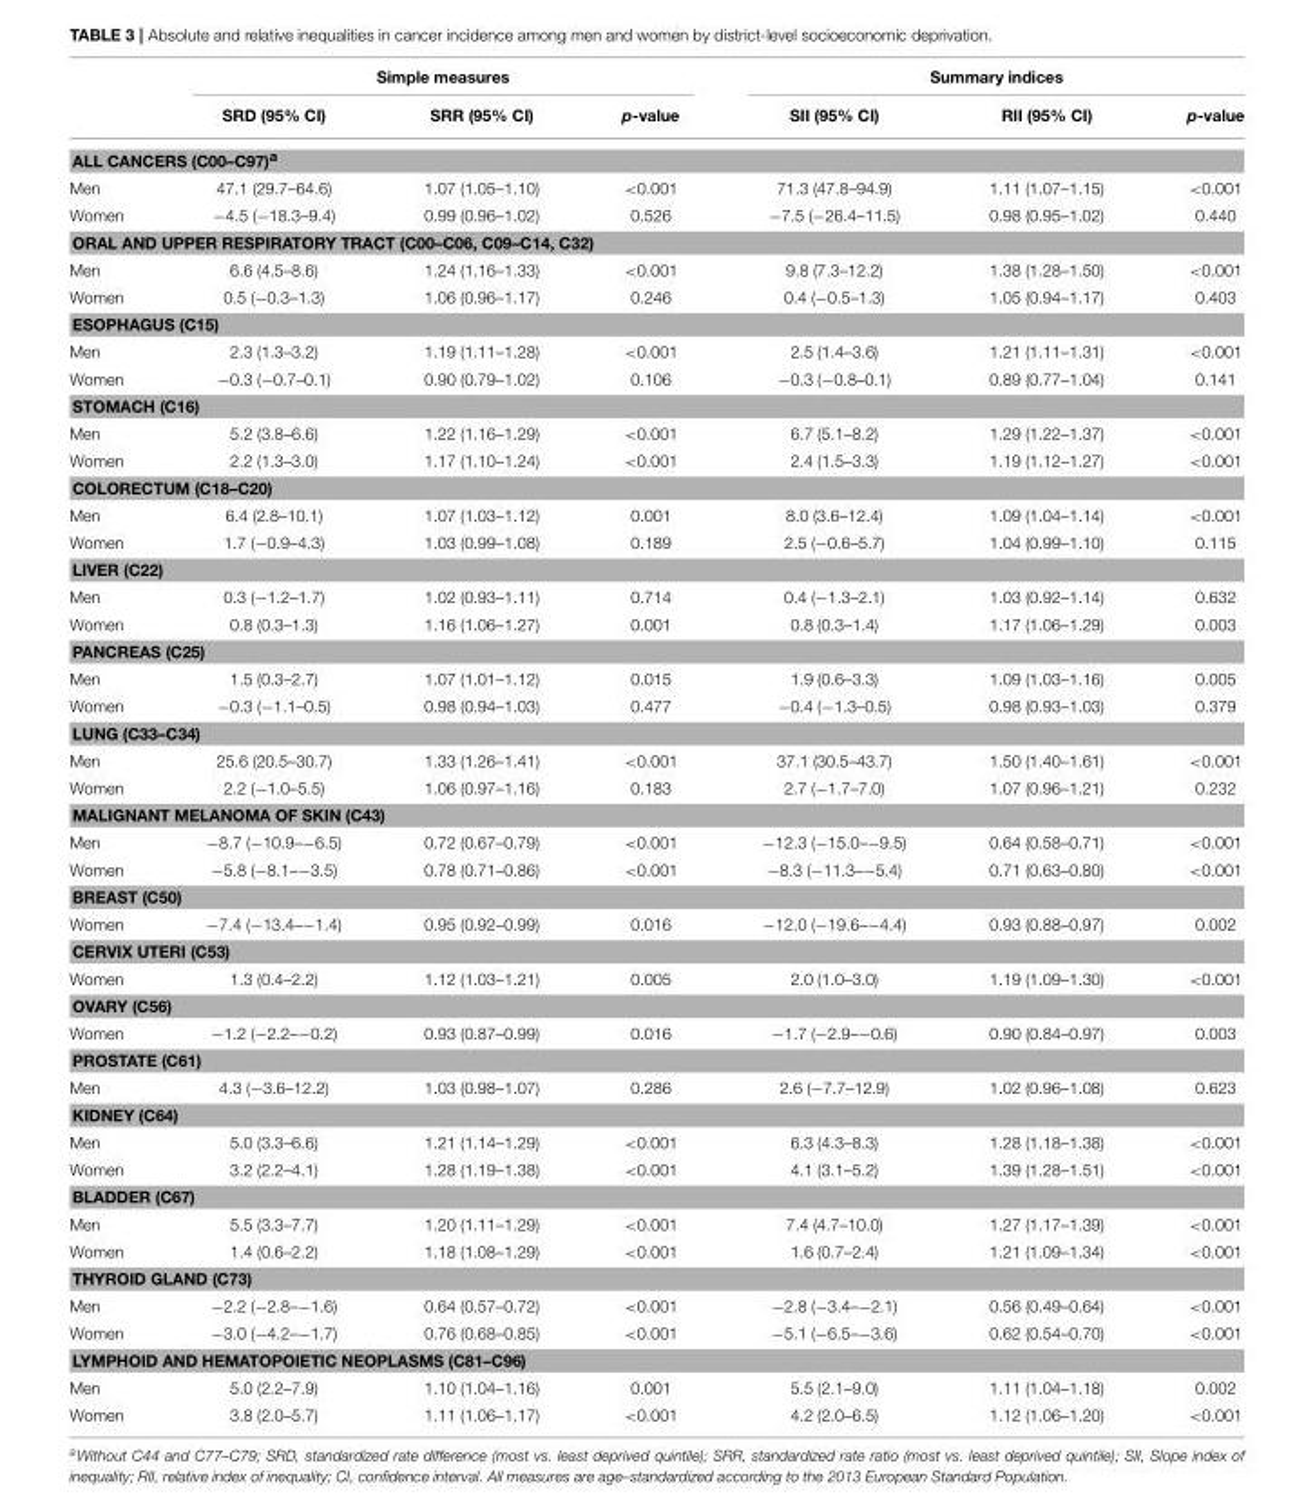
<table><thead><tr><td rowspan="2"></td><td colspan="3">Simple measures</td><td colspan="3">Summary indices</td></tr><tr><td>SRD (95% CI)</td><td>SRR (95% CI)</td><td>p-value</td><td>SII (95% CI)</td><td>RII (95% CI)</td><td>p-value</td></tr></thead><tbody><tr><td colspan="7">ALL CANCERS (C00–C97)<sup>a</sup></td></tr><tr><td>Men</td><td>47.1 (29.7–64.6)</td><td>1.07 (1.05–1.10)</td><td>&lt;0.001</td><td>71.3 (47.8–94.9)</td><td>1.11 (1.07–1.15)</td><td>&lt;0.001</td></tr><tr><td>Women</td><td>−4.5 (−18.3–9.4)</td><td>0.99 (0.96–1.02)</td><td>0.526</td><td>−7.5 (−26.4–11.5)</td><td>0.98 (0.95–1.02)</td><td>0.440</td></tr><tr><td colspan="7">ORAL AND UPPER RESPIRATORY TRACT (C00–C06, C09–C14, C32)</td></tr><tr><td>Men</td><td>6.6 (4.5–8.6)</td><td>1.24 (1.16–1.33)</td><td>&lt;0.001</td><td>9.8 (7.3–12.2)</td><td>1.38 (1.28–1.50)</td><td>&lt;0.001</td></tr><tr><td>Women</td><td>0.5 (−0.3–1.3)</td><td>1.06 (0.96–1.17)</td><td>0.246</td><td>0.4 (−0.5–1.3)</td><td>1.05 (0.94–1.17)</td><td>0.403</td></tr><tr><td colspan="7">ESOPHAGUS (C15)</td></tr><tr><td>Men</td><td>2.3 (1.3–3.2)</td><td>1.19 (1.11–1.28)</td><td>&lt;0.001</td><td>2.5 (1.4–3.6)</td><td>1.21 (1.11–1.31)</td><td>&lt;0.001</td></tr><tr><td>Women</td><td>−0.3 (−0.7–0.1)</td><td>0.90 (0.79–1.02)</td><td>0.106</td><td>−0.3 (−0.8–0.1)</td><td>0.89 (0.77–1.04)</td><td>0.141</td></tr><tr><td colspan="7">STOMACH (C16)</td></tr><tr><td>Men</td><td>5.2 (3.8–6.6)</td><td>1.22 (1.16–1.29)</td><td>&lt;0.001</td><td>6.7 (5.1–8.2)</td><td>1.29 (1.22–1.37)</td><td>&lt;0.001</td></tr><tr><td>Women</td><td>2.2 (1.3–3.0)</td><td>1.17 (1.10–1.24)</td><td>&lt;0.001</td><td>2.4 (1.5–3.3)</td><td>1.19 (1.12–1.27)</td><td>&lt;0.001</td></tr><tr><td colspan="7">COLORECTUM (C18–C20)</td></tr><tr><td>Men</td><td>6.4 (2.8–10.1)</td><td>1.07 (1.03–1.12)</td><td>0.001</td><td>8.0 (3.6–12.4)</td><td>1.09 (1.04–1.14)</td><td>&lt;0.001</td></tr><tr><td>Women</td><td>1.7 (−0.9–4.3)</td><td>1.03 (0.99–1.08)</td><td>0.189</td><td>2.5 (−0.6–5.7)</td><td>1.04 (0.99–1.10)</td><td>0.115</td></tr><tr><td colspan="7">LIVER (C22)</td></tr><tr><td>Men</td><td>0.3 (−1.2–1.7)</td><td>1.02 (0.93–1.11)</td><td>0.714</td><td>0.4 (−1.3–2.1)</td><td>1.03 (0.92–1.14)</td><td>0.632</td></tr><tr><td>Women</td><td>0.8 (0.3–1.3)</td><td>1.16 (1.06–1.27)</td><td>0.001</td><td>0.8 (0.3–1.4)</td><td>1.17 (1.06–1.29)</td><td>0.003</td></tr><tr><td colspan="7">PANCREAS (C25)</td></tr><tr><td>Men</td><td>1.5 (0.3–2.7)</td><td>1.07 (1.01–1.12)</td><td>0.015</td><td>1.9 (0.6–3.3)</td><td>1.09 (1.03–1.16)</td><td>0.005</td></tr><tr><td>Women</td><td>−0.3 (−1.1–0.5)</td><td>0.98 (0.94–1.03)</td><td>0.477</td><td>−0.4 (−1.3–0.5)</td><td>0.98 (0.93–1.03)</td><td>0.379</td></tr><tr><td colspan="7">LUNG (C33–C34)</td></tr><tr><td>Men</td><td>25.6 (20.5–30.7)</td><td>1.33 (1.26–1.41)</td><td>&lt;0.001</td><td>37.1 (30.5–43.7)</td><td>1.50 (1.40–1.61)</td><td>&lt;0.001</td></tr><tr><td>Women</td><td>2.2 (−1.0–5.5)</td><td>1.06 (0.97–1.16)</td><td>0.183</td><td>2.7 (−1.7–7.0)</td><td>1.07 (0.96–1.21)</td><td>0.232</td></tr><tr><td colspan="7">MALIGNANT MELANOMA OF SKIN (C43)</td></tr><tr><td>Men</td><td>−8.7 (−10.9–−6.5)</td><td>0.72 (0.67–0.79)</td><td>&lt;0.001</td><td>−12.3 (−15.0–−9.5)</td><td>0.64 (0.58–0.71)</td><td>&lt;0.001</td></tr><tr><td>Women</td><td>−5.8 (−8.1–−3.5)</td><td>0.78 (0.71–0.86)</td><td>&lt;0.001</td><td>−8.3 (−11.3–−5.4)</td><td>0.71 (0.63–0.80)</td><td>&lt;0.001</td></tr><tr><td colspan="7">BREAST (C50)</td></tr><tr><td>Women</td><td>−7.4 (−13.4–−1.4)</td><td>0.95 (0.92–0.99)</td><td>0.016</td><td>−12.0 (−19.6–−4.4)</td><td>0.93 (0.88–0.97)</td><td>0.002</td></tr><tr><td colspan="7">CERVIX UTERI (C53)</td></tr><tr><td>Women</td><td>1.3 (0.4–2.2)</td><td>1.12 (1.03–1.21)</td><td>0.005</td><td>2.0 (1.0–3.0)</td><td>1.19 (1.09–1.30)</td><td>&lt;0.001</td></tr><tr><td colspan="7">OVARY (C56)</td></tr><tr><td>Women</td><td>−1.2 (−2.2–−0.2)</td><td>0.93 (0.87–0.99)</td><td>0.016</td><td>−1.7 (−2.9–−0.6)</td><td>0.90 (0.84–0.97)</td><td>0.003</td></tr><tr><td colspan="7">PROSTATE (C61)</td></tr><tr><td>Men</td><td>4.3 (−3.6–12.2)</td><td>1.03 (0.98–1.07)</td><td>0.286</td><td>2.6 (−7.7–12.9)</td><td>1.02 (0.96–1.08)</td><td>0.623</td></tr><tr><td colspan="7">KIDNEY (C64)</td></tr><tr><td>Men</td><td>5.0 (3.3–6.6)</td><td>1.21 (1.14–1.29)</td><td>&lt;0.001</td><td>6.3 (4.3–8.3)</td><td>1.28 (1.18–1.38)</td><td>&lt;0.001</td></tr><tr><td>Women</td><td>3.2 (2.2–4.1)</td><td>1.28 (1.19–1.38)</td><td>&lt;0.001</td><td>4.1 (3.1–5.2)</td><td>1.39 (1.28–1.51)</td><td>&lt;0.001</td></tr><tr><td colspan="7">BLADDER (C67)</td></tr><tr><td>Men</td><td>5.5 (3.3–7.7)</td><td>1.20 (1.11–1.29)</td><td>&lt;0.001</td><td>7.4 (4.7–10.0)</td><td>1.27 (1.17–1.39)</td><td>&lt;0.001</td></tr><tr><td>Women</td><td>1.4 (0.6–2.2)</td><td>1.18 (1.08–1.29)</td><td>&lt;0.001</td><td>1.6 (0.7–2.4)</td><td>1.21 (1.09–1.34)</td><td>&lt;0.001</td></tr><tr><td colspan="7">THYROID GLAND (C73)</td></tr><tr><td>Men</td><td>−2.2 (−2.8–−1.6)</td><td>0.64 (0.57–0.72)</td><td>&lt;0.001</td><td>−2.8 (−3.4–−2.1)</td><td>0.56 (0.49–0.64)</td><td>&lt;0.001</td></tr><tr><td>Women</td><td>−3.0 (−4.2–−1.7)</td><td>0.76 (0.68–0.85)</td><td>&lt;0.001</td><td>−5.1 (−6.5–−3.6)</td><td>0.62 (0.54–0.70)</td><td>&lt;0.001</td></tr><tr><td colspan="7">LYMPHOID AND HEMATOPOIETIC NEOPLASMS (C81–C96)</td></tr><tr><td>Men</td><td>5.0 (2.2–7.9)</td><td>1.10 (1.04–1.16)</td><td>0.001</td><td>5.5 (2.1–9.0)</td><td>1.11 (1.04–1.18)</td><td>0.002</td></tr><tr><td>Women</td><td>3.8 (2.0–5.7)</td><td>1.11 (1.06–1.17)</td><td>&lt;0.001</td><td>4.2 (2.0–6.5)</td><td>1.12 (1.06–1.20)</td><td>&lt;0.001</td></tr></tbody></table>